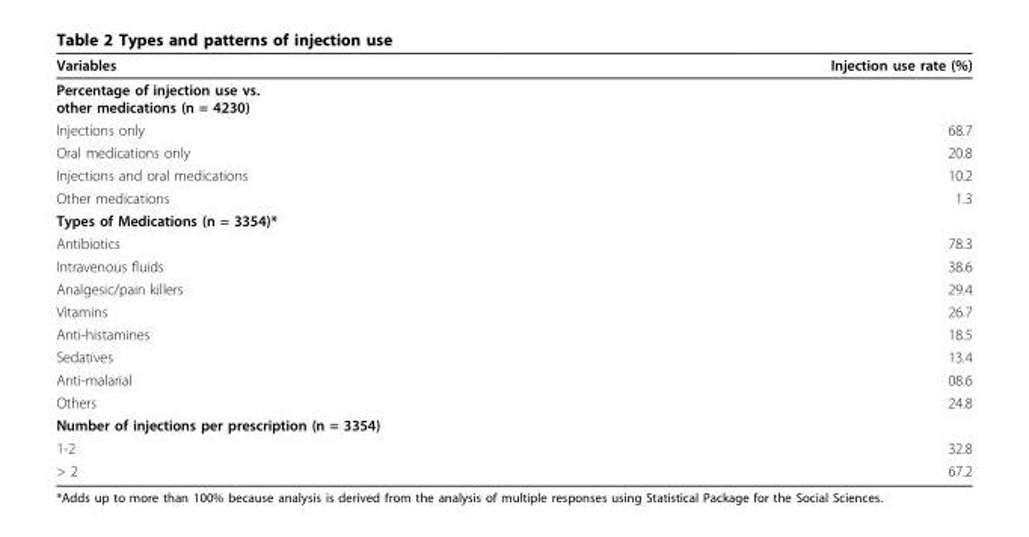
<table><thead><tr><td>Variables</td><td>Injection use rate (%)</td></tr></thead><tbody><tr><td colspan="2">Percentage of injection use vs. other medications (n = 4230)</td></tr><tr><td>Injections only</td><td>68.7</td></tr><tr><td>Oral medications only</td><td>20.8</td></tr><tr><td>Injections and oral medications</td><td>10.2</td></tr><tr><td>Other medications</td><td>1.3</td></tr><tr><td colspan="2">Types of Medications (n = 3354)*</td></tr><tr><td>Antibiotics</td><td>78.3</td></tr><tr><td>Intravenous fluids</td><td>38.6</td></tr><tr><td>Analgesic/pain killers</td><td>29.4</td></tr><tr><td>Vitamins</td><td>26.7</td></tr><tr><td>Anti-histamines</td><td>18.5</td></tr><tr><td>Sedatives</td><td>13.4</td></tr><tr><td>Anti-malarial</td><td>08.6</td></tr><tr><td>Others</td><td>24.8</td></tr><tr><td colspan="2">Number of injections per prescription (n = 3354)</td></tr><tr><td>1-2</td><td>32.8</td></tr><tr><td>&gt; 2</td><td>67.2</td></tr></tbody></table>